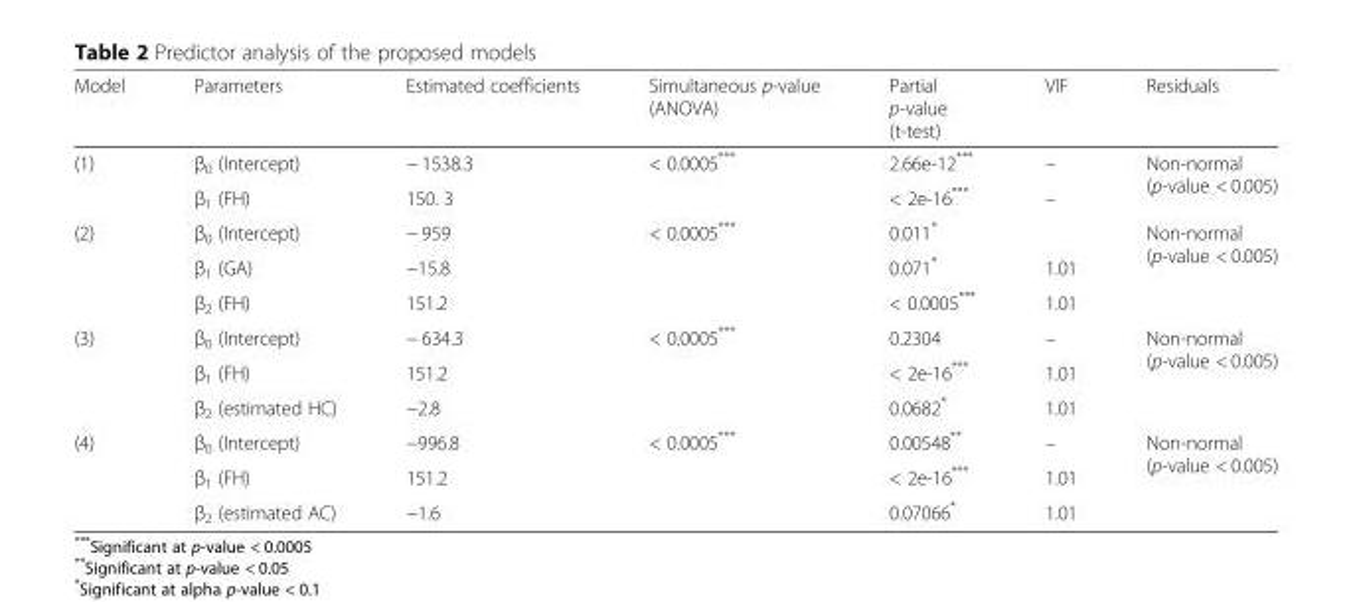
<table><thead><tr><td>Model</td><td>Parameters</td><td>Estimated coefficients</td><td>Simultaneous p-value (ANOVA)</td><td>Partial p-value (t-test)</td><td>VIF</td><td>Residuals</td></tr></thead><tbody><tr><td rowspan="2">(1)</td><td>β<sub>0</sub> (Intercept)</td><td>− 1538.3</td><td rowspan="2">&lt; 0.0005***</td><td>2.66e-12***</td><td>–</td><td rowspan="2">Non-normal (p-value &lt; 0.005)</td></tr><tr><td>β<sub>1</sub> (FH)</td><td>150. 3</td><td>&lt; 2e-16***</td><td>–</td></tr><tr><td rowspan="3">(2)</td><td>β<sub>0</sub> (Intercept)</td><td>− 959</td><td rowspan="3">&lt; 0.0005***</td><td>0.011*</td><td></td><td rowspan="3">Non-normal (p-value &lt; 0.005)</td></tr><tr><td>β<sub>1</sub> (GA)</td><td>−15.8</td><td>0.071*</td><td>1.01</td></tr><tr><td>β<sub>2</sub> (FH)</td><td>151.2</td><td>&lt; 0.0005***</td><td>1.01</td></tr><tr><td rowspan="3">(3)</td><td>β<sub>0</sub> (Intercept)</td><td>− 634.3</td><td rowspan="3">&lt; 0.0005***</td><td>0.2304</td><td>–</td><td rowspan="3">Non-normal (p-value &lt; 0.005)</td></tr><tr><td>β<sub>1</sub> (FH)</td><td>151.2</td><td>&lt; 2e-16***</td><td>1.01</td></tr><tr><td>β<sub>2</sub> (estimated HC)</td><td>−2.8</td><td>0.0682*</td><td>1.01</td></tr><tr><td rowspan="3">(4)</td><td>β<sub>0</sub> (Intercept)</td><td>−996.8</td><td rowspan="3">&lt; 0.0005***</td><td>0.00548**</td><td>–</td><td rowspan="3">Non-normal (p-value &lt; 0.005)</td></tr><tr><td>β<sub>1</sub> (FH)</td><td>151.2</td><td>&lt; 2e-16***</td><td>1.01</td></tr><tr><td>β<sub>2</sub> (estimated AC)</td><td>−1.6</td><td>0.07066*</td><td>1.01</td></tr></tbody></table>